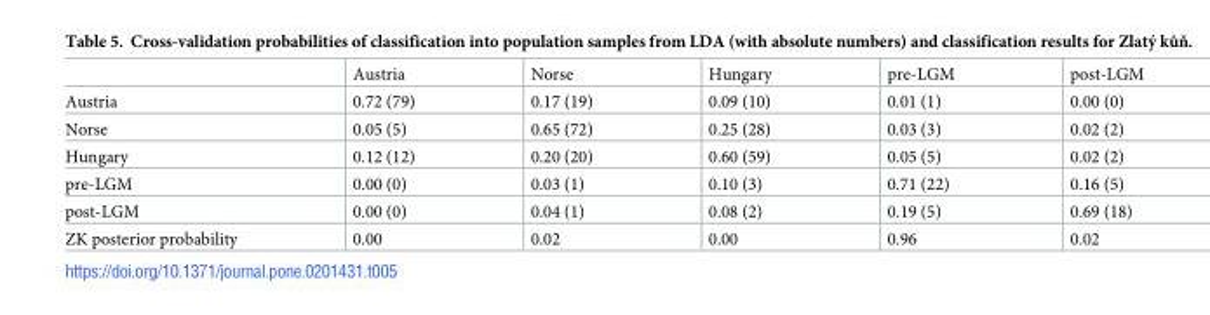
<table><thead><tr><td></td><td>Austria</td><td>Norse</td><td>Hungary</td><td>pre-LGM</td><td>post-LGM</td></tr></thead><tbody><tr><td>Austria</td><td>0.72 (79)</td><td>0.17 (19)</td><td>0.09 (10)</td><td>0.01 (1)</td><td>0.00 (0)</td></tr><tr><td>Norse</td><td>0.05 (5)</td><td>0.65 (72)</td><td>0.25 (28)</td><td>0.03 (3)</td><td>0.02 (2)</td></tr><tr><td>Hungary</td><td>0.12 (12)</td><td>0.20 (20)</td><td>0.60 (59)</td><td>0.05 (5)</td><td>0.02 (2)</td></tr><tr><td>pre-LGM</td><td>0.00 (0)</td><td>0.03 (1)</td><td>0.10 (3)</td><td>0.71 (22)</td><td>0.16 (5)</td></tr><tr><td>post-LGM</td><td>0.00 (0)</td><td>0.04 (1)</td><td>0.08 (2)</td><td>0.19 (5)</td><td>0.69 (18)</td></tr><tr><td>ZK posterior probability</td><td>0.00</td><td>0.02</td><td>0.00</td><td>0.96</td><td>0.02</td></tr></tbody></table>